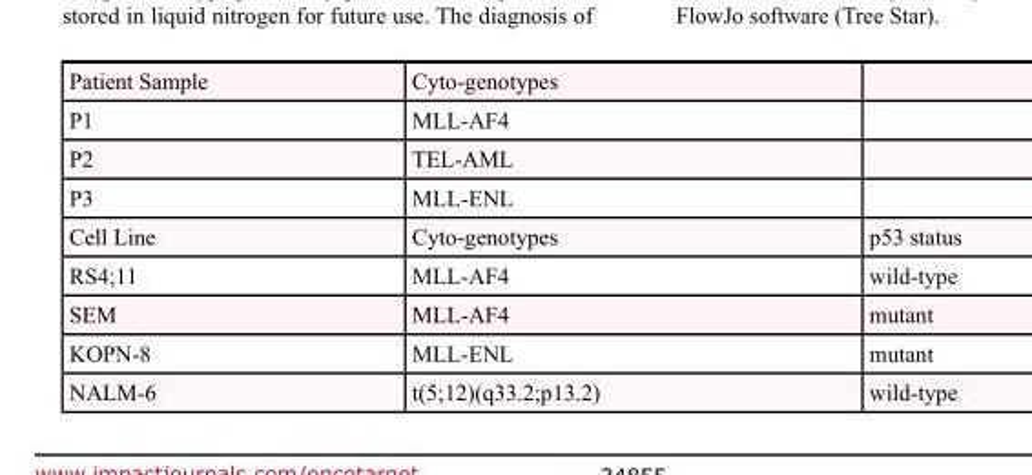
<table><tbody><tr><td>Patient Sample</td><td>Cyto-genotypes</td><td></td></tr><tr><td>P1</td><td>MLL-AF4</td><td></td></tr><tr><td>P2</td><td>TEL-AML</td><td></td></tr><tr><td>P3</td><td>MLL-ENL</td><td></td></tr><tr><td>Cell Line</td><td>Cyto-genotypes</td><td>p53 status</td></tr><tr><td>RS4;11</td><td>MLL-AF4</td><td>wild-type</td></tr><tr><td>SEM</td><td>MLL-AF4</td><td>mutant</td></tr><tr><td>KOPN-8</td><td>MLL-ENL</td><td>mutant</td></tr><tr><td>NALM-6</td><td>t(5;12)(q33.2;p13.2)</td><td>wild-type</td></tr></tbody></table>